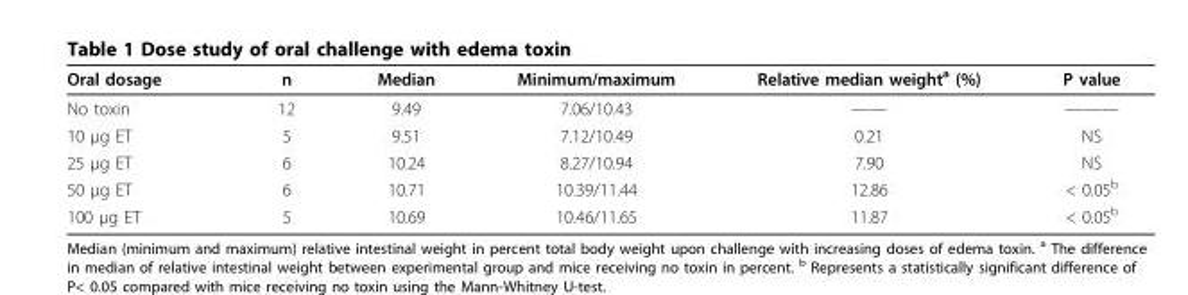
<table><thead><tr><td>Oral dosage</td><td>n</td><td>Median</td><td>Minimum/maximum</td><td>Relative median weight<sup>a</sup> (%)</td><td>P value</td></tr></thead><tbody><tr><td>No toxin</td><td>12</td><td>9.49</td><td>7.06/10.43</td><td>——</td><td>———</td></tr><tr><td>10 μg ET</td><td>5</td><td>9.51</td><td>7.12/10.49</td><td>0.21</td><td>NS</td></tr><tr><td>25 μg ET</td><td>6</td><td>10.24</td><td>8.27/10.94</td><td>7.90</td><td>NS</td></tr><tr><td>50 μg ET</td><td>6</td><td>10.71</td><td>10.39/11.44</td><td>12.86</td><td>&lt; 0.05<sup>b</sup></td></tr><tr><td>100 μg ET</td><td>5</td><td>10.69</td><td>10.46/11.65</td><td>11.87</td><td>&lt; 0.05<sup>b</sup></td></tr></tbody></table>